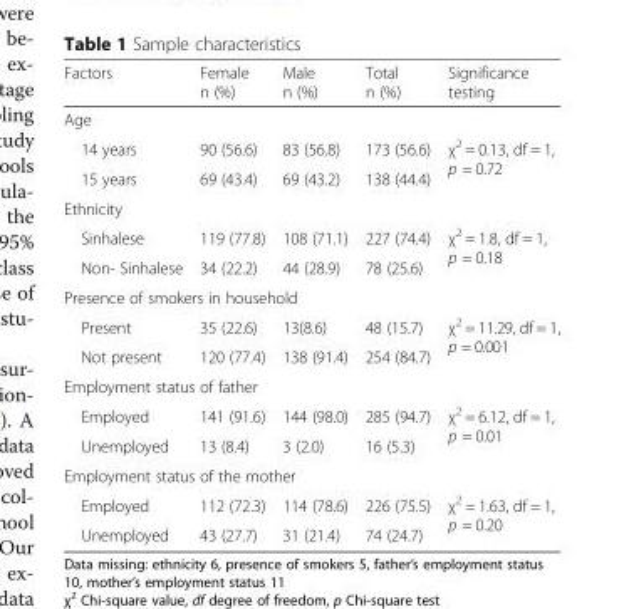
<table><thead><tr><td>Factors</td><td>Female n (%)</td><td>Male n (%)</td><td>Total n (%)</td><td>Significance testing</td></tr></thead><tbody><tr><td colspan="5">Age</td></tr><tr><td>14 years</td><td>90 (56.6)</td><td>83 (56.8)</td><td>173 (56.6)</td><td rowspan="2">χ<sup>2</sup> = 0.13, df = 1, p = 0.72</td></tr><tr><td>15 years</td><td>69 (43.4)</td><td>69 (43.2)</td><td>138 (44.4)</td></tr><tr><td colspan="5">Ethnicity</td></tr><tr><td>Sinhalese</td><td>119 (77.8)</td><td>108 (71.1)</td><td>227 (74.4)</td><td rowspan="2">χ<sup>2</sup> = 1.8, df = 1, p = 0.18</td></tr><tr><td>Non- Sinhalese</td><td>34 (22.2)</td><td>44 (28.9)</td><td>78 (25.6)</td></tr><tr><td colspan="5">Presence of smokers in household</td></tr><tr><td>Present</td><td>35 (22.6)</td><td>13(8.6)</td><td>48 (15.7)</td><td rowspan="2">χ<sup>2</sup> = 11.29, df = 1, p = 0.001</td></tr><tr><td>Not present</td><td>120 (77.4)</td><td>138 (91.4)</td><td>254 (84.7)</td></tr><tr><td colspan="5">Employment status of father</td></tr><tr><td>Employed</td><td>141 (91.6)</td><td>144 (98.0)</td><td>285 (94.7)</td><td rowspan="2">χ<sup>2</sup> = 6.12, df = 1, p = 0.01</td></tr><tr><td>Unemployed</td><td>13 (8.4)</td><td>3 (2.0)</td><td>16 (5.3)</td></tr><tr><td colspan="5">Employment status of the mother</td></tr><tr><td>Employed</td><td>112 (72.3)</td><td>114 (78.6)</td><td>226 (75.5)</td><td rowspan="2">χ<sup>2</sup> = 1.63, df = 1, p = 0.20</td></tr><tr><td>Unemployed</td><td>43 (27.7)</td><td>31 (21.4)</td><td>74 (24.7)</td></tr></tbody></table>